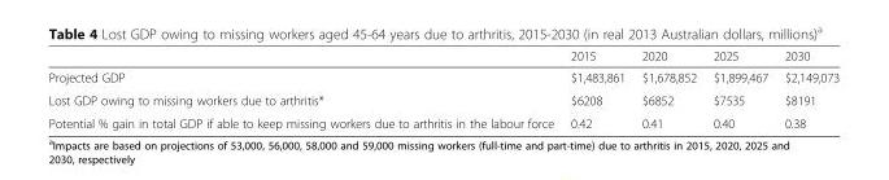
<table><thead><tr><td></td><td>2015</td><td>2020</td><td>2025</td><td>2030</td></tr></thead><tbody><tr><td>Projected GDP</td><td>$1,483,861</td><td>$1,678,852</td><td>$1,899,467</td><td>$2,149,073</td></tr><tr><td>Lost GDP owing to missing workers due to arthritis*</td><td>$6208</td><td>$6852</td><td>$7535</td><td>$8191</td></tr><tr><td>Potential % gain in total GDP if able to keep missing workers due to arthritis in the labour force</td><td>0.42</td><td>0.41</td><td>0.40</td><td>0.38</td></tr></tbody></table>